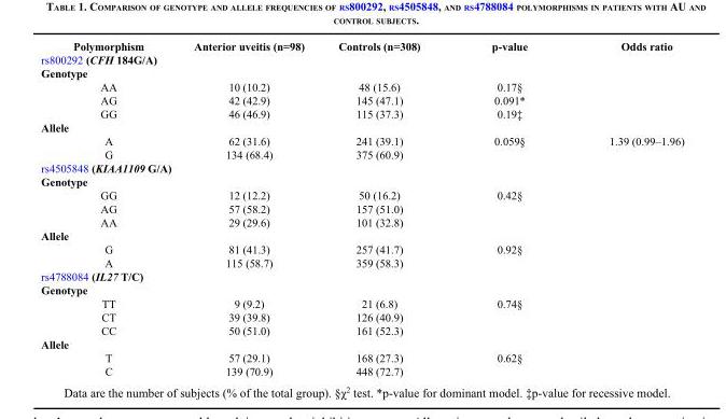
<table><thead><tr><td>Polymorphism</td><td>Anterior uveitis (n=98)</td><td>Controls (n=308)</td><td>p-value</td><td>Odds ratio</td></tr></thead><tbody><tr><td colspan="5">rs800292 (CFH 184G/A)</td></tr><tr><td colspan="5">Genotype</td></tr><tr><td>AA</td><td>10 (10.2)</td><td>48 (15.6)</td><td>0.17§</td><td></td></tr><tr><td>AG</td><td>42 (42.9)</td><td>145 (47.1)</td><td>0.091*</td><td></td></tr><tr><td>GG</td><td>46 (46.9)</td><td>115 (37.3)</td><td>0.19‡</td><td></td></tr><tr><td colspan="5">Allele</td></tr><tr><td>A</td><td>62 (31.6)</td><td>241 (39.1)</td><td>0.059§</td><td>1.39 (0.99–1.96)</td></tr><tr><td>G</td><td>134 (68.4)</td><td>375 (60.9)</td><td></td><td></td></tr><tr><td colspan="5">rs4505848 (KIAA1109 G/A)</td></tr><tr><td colspan="5">Genotype</td></tr><tr><td>GG</td><td>12 (12.2)</td><td>50 (16.2)</td><td>0.42§</td><td></td></tr><tr><td>AG</td><td>57 (58.2)</td><td>157 (51.0)</td><td></td><td></td></tr><tr><td>AA</td><td>29 (29.6)</td><td>101 (32.8)</td><td></td><td></td></tr><tr><td colspan="5">Allele</td></tr><tr><td>G</td><td>81 (41.3)</td><td>257 (41.7)</td><td>0.92§</td><td></td></tr><tr><td>A</td><td>115 (58.7)</td><td>359 (58.3)</td><td></td><td></td></tr><tr><td colspan="5">rs4788084 (IL27 T/C)</td></tr><tr><td colspan="5">Genotype</td></tr><tr><td>TT</td><td>9 (9.2)</td><td>21 (6.8)</td><td>0.74§</td><td></td></tr><tr><td>CT</td><td>39 (39.8)</td><td>126 (40.9)</td><td></td><td></td></tr><tr><td>CC</td><td>50 (51.0)</td><td>161 (52.3)</td><td></td><td></td></tr><tr><td colspan="5">Allele</td></tr><tr><td>T</td><td>57 (29.1)</td><td>168 (27.3)</td><td>0.62§</td><td></td></tr><tr><td>C</td><td>139 (70.9)</td><td>448 (72.7)</td><td></td><td></td></tr></tbody></table>